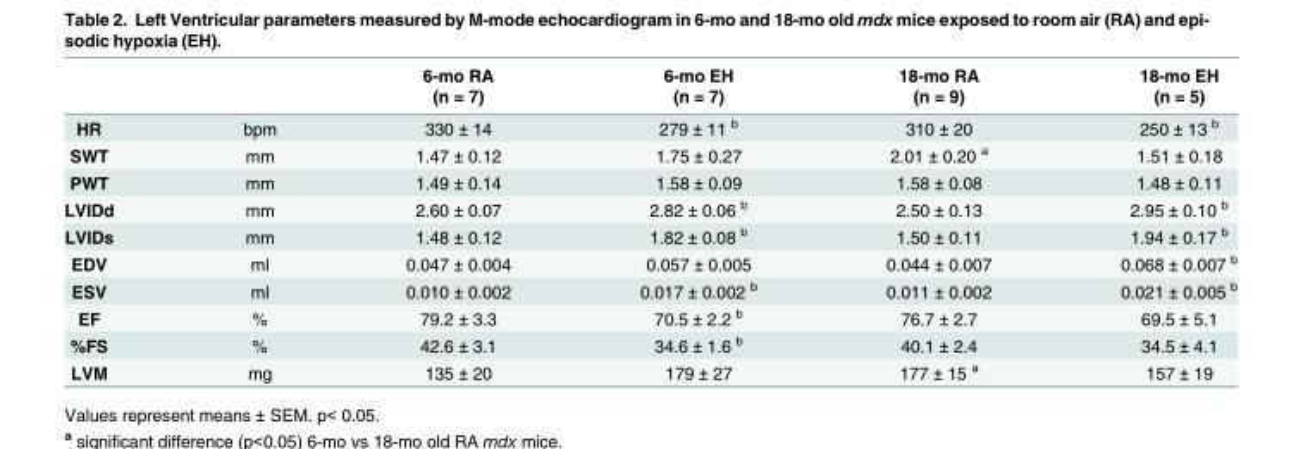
<table><thead><tr><td rowspan="2"></td><td rowspan="2"></td><td rowspan="2">6-mo RA (n = 7)</td><td rowspan="2">6-mo EH (n = 7)</td><td rowspan="2">18-mo RA (n = 9)</td><td rowspan="2">18-mo EH (n = 5)</td></tr><tr></tr></thead><tbody><tr><td>HR</td><td>bpm</td><td>330 ± 14</td><td>279 ± 11 <sup>b</sup></td><td>310 ± 20</td><td>250 ± 13 <sup>b</sup></td></tr><tr><td>SWT</td><td>mm</td><td>1.47 ± 0.12</td><td>1.75 ± 0.27</td><td>2.01 ± 0.20 <sup>a</sup></td><td>1.51 ± 0.18</td></tr><tr><td>PWT</td><td>mm</td><td>1.49 ± 0.14</td><td>1.58 ± 0.09</td><td>1.58 ± 0.08</td><td>1.48 ± 0.11</td></tr><tr><td>LVIDd</td><td>mm</td><td>2.60 ± 0.07</td><td>2.82 ± 0.06 <sup>b</sup></td><td>2.50 ± 0.13</td><td>2.95 ± 0.10 <sup>b</sup></td></tr><tr><td>LVIDs</td><td>mm</td><td>1.48 ± 0.12</td><td>1.82 ± 0.08 <sup>b</sup></td><td>1.50 ± 0.11</td><td>1.94 ± 0.17 <sup>b</sup></td></tr><tr><td>EDV</td><td>ml</td><td>0.047 ± 0.004</td><td>0.057 ± 0.005</td><td>0.044 ± 0.007</td><td>0.068 ± 0.007 <sup>b</sup></td></tr><tr><td>ESV</td><td>ml</td><td>0.010 ± 0.002</td><td>0.017 ± 0.002 <sup>b</sup></td><td>0.011 ± 0.002</td><td>0.021 ± 0.005 <sup>b</sup></td></tr><tr><td>EF</td><td>%</td><td>79.2 ± 3.3</td><td>70.5 ± 2.2 <sup>b</sup></td><td>76.7 ± 2.7</td><td>69.5 ± 5.1</td></tr><tr><td>%FS</td><td>%</td><td>42.6 ± 3.1</td><td>34.6 ± 1.6 <sup>b</sup></td><td>40.1 ± 2.4</td><td>34.5 ± 4.1</td></tr><tr><td>LVM</td><td>mg</td><td>135 ± 20</td><td>179 ± 27</td><td>177 ± 15 <sup>a</sup></td><td>157 ± 19</td></tr></tbody></table>